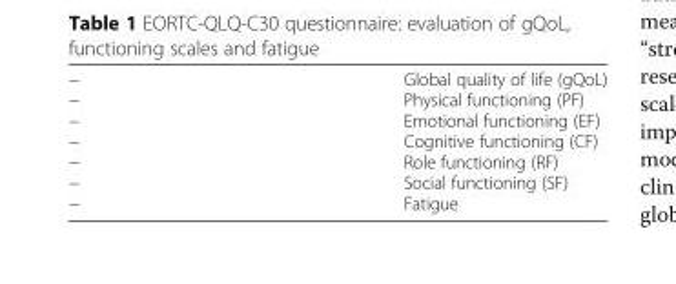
<table><tbody><tr><td>− − − − − − −</td><td>Global quality of life (gQoL) Physical functioning (PF) Emotional functioning (EF) Cognitive functioning (CF) Role functioning (RF) Social functioning (SF) Fatigue</td></tr></tbody></table>